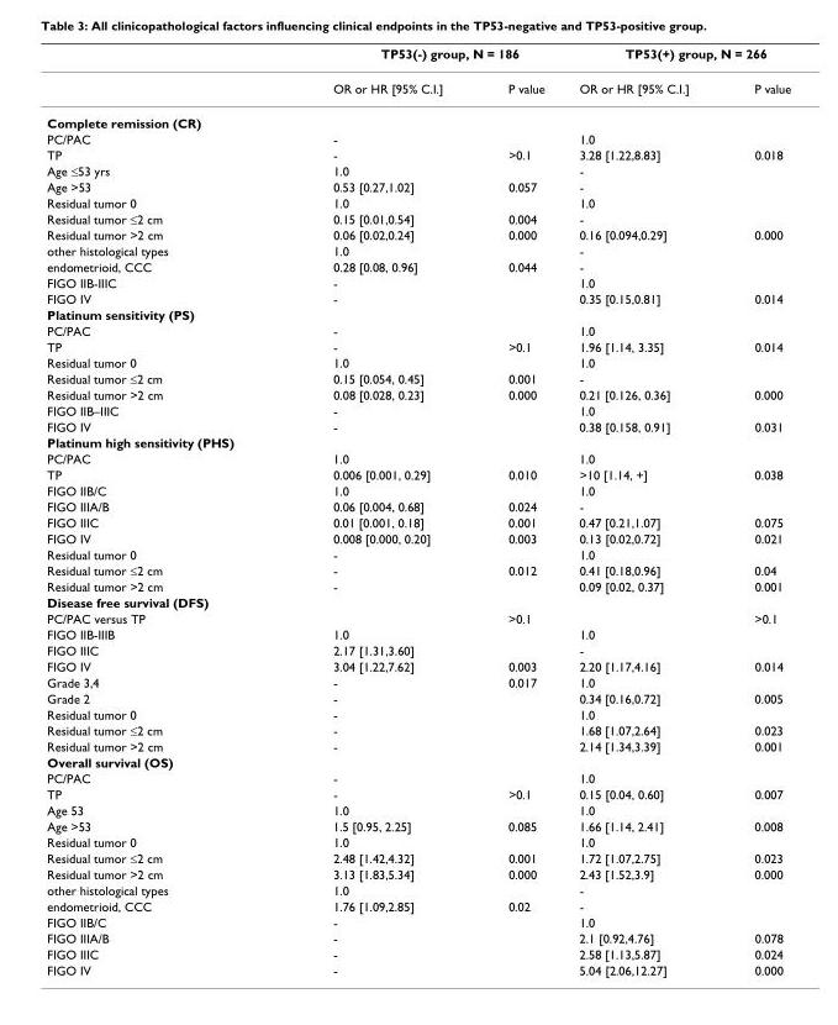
<table><thead><tr><td rowspan="2"></td><td colspan="2">TP53(-) group, N = 186</td><td colspan="2">TP53(+) group, N = 266</td></tr><tr><td>OR or HR [95% C.I.]</td><td>P value</td><td>OR or HR [95% C.I.]</td><td>P value</td></tr></thead><tbody><tr><td colspan="5">Complete remission (CR)</td></tr><tr><td>PC/PAC</td><td>-</td><td></td><td>1.0</td><td></td></tr><tr><td>TP</td><td>-</td><td>&gt;0.1</td><td>3.28 [1.22,8.83]</td><td>0.018</td></tr><tr><td>Age ≤53 yrs</td><td>1.0</td><td></td><td>-</td><td></td></tr><tr><td>Age &gt;53</td><td>0.53 [0.27,1.02]</td><td>0.057</td><td>-</td><td></td></tr><tr><td>Residual tumor 0</td><td>1.0</td><td></td><td>1.0</td><td></td></tr><tr><td>Residual tumor ≤2 cm</td><td>0.15 [0.01,0.54]</td><td>0.004</td><td>-</td><td></td></tr><tr><td>Residual tumor &gt;2 cm</td><td>0.06 [0.02,0.24]</td><td>0.000</td><td>0.16 [0.094,0.29]</td><td>0.000</td></tr><tr><td>other histological types</td><td>1.0</td><td></td><td>-</td><td></td></tr><tr><td>endometrioid, CCC</td><td>0.28 [0.08, 0.96]</td><td>0.044</td><td>-</td><td></td></tr><tr><td>FIGO IIB-IIIC</td><td>-</td><td></td><td>1.0</td><td></td></tr><tr><td>FIGO IV</td><td>-</td><td></td><td>0.35 [0.15,0.81]</td><td>0.014</td></tr><tr><td colspan="5">Platinum sensitivity (PS)</td></tr><tr><td>PC/PAC</td><td>-</td><td></td><td>1.0</td><td></td></tr><tr><td>TP</td><td>-</td><td>&gt;0.1</td><td>1.96 [1.14, 3.35]</td><td>0.014</td></tr><tr><td>Residual tumor 0</td><td>1.0</td><td></td><td>1.0</td><td></td></tr><tr><td>Residual tumor ≤2 cm</td><td>0.15 [0.054, 0.45]</td><td>0.001</td><td>-</td><td></td></tr><tr><td>Residual tumor &gt;2 cm</td><td>0.08 [0.028, 0.23]</td><td>0.000</td><td>0.21 [0.126, 0.36]</td><td>0.000</td></tr><tr><td>FIGO IIB–IIIC</td><td>-</td><td></td><td>1.0</td><td></td></tr><tr><td>FIGO IV</td><td>-</td><td></td><td>0.38 [0.158, 0.91]</td><td>0.031</td></tr><tr><td colspan="5">Platinum high sensitivity (PHS)</td></tr><tr><td>PC/PAC</td><td>1.0</td><td></td><td>1.0</td><td></td></tr><tr><td>TP</td><td>0.006 [0.001, 0.29]</td><td>0.010</td><td>&gt;10 [1.14, +]</td><td>0.038</td></tr><tr><td>FIGO IIB/C</td><td>1.0</td><td></td><td>1.0</td><td></td></tr><tr><td>FIGO IIIA/B</td><td>0.06 [0.004, 0.68]</td><td>0.024</td><td>-</td><td></td></tr><tr><td>FIGO IIIC</td><td>0.01 [0.001, 0.18]</td><td>0.001</td><td>0.47 [0.21,1.07]</td><td>0.075</td></tr><tr><td>FIGO IV</td><td>0.008 [0.000, 0.20]</td><td>0.003</td><td>0.13 [0.02,0.72]</td><td>0.021</td></tr><tr><td>Residual tumor 0</td><td>-</td><td></td><td>1.0</td><td></td></tr><tr><td>Residual tumor ≤2 cm</td><td>-</td><td>0.012</td><td>0.41 [0.18,0.96]</td><td>0.04</td></tr><tr><td>Residual tumor &gt;2 cm</td><td>-</td><td></td><td>0.09 [0.02, 0.37]</td><td>0.001</td></tr><tr><td colspan="5">Disease free survival (DFS)</td></tr><tr><td>PC/PAC versus TP</td><td></td><td>&gt;0.1</td><td></td><td>&gt;0.1</td></tr><tr><td>FIGO IIB-IIIB</td><td>1.0</td><td></td><td>1.0</td><td></td></tr><tr><td>FIGO IIIC</td><td>2.17 [1.31,3.60]</td><td></td><td>-</td><td></td></tr><tr><td>FIGO IV</td><td>3.04 [1.22,7.62]</td><td>0.003</td><td>2.20 [1.17,4.16]</td><td>0.014</td></tr><tr><td>Grade 3,4</td><td>-</td><td>0.017</td><td>1.0</td><td></td></tr><tr><td>Grade 2</td><td>-</td><td></td><td>0.34 [0.16,0.72]</td><td>0.005</td></tr><tr><td>Residual tumor 0</td><td>-</td><td></td><td>1.0</td><td></td></tr><tr><td>Residual tumor ≤2 cm</td><td>-</td><td></td><td>1.68 [1.07,2.64]</td><td>0.023</td></tr><tr><td>Residual tumor &gt;2 cm</td><td>-</td><td></td><td>2.14 [1.34,3.39]</td><td>0.001</td></tr><tr><td colspan="5">Overall survival (OS)</td></tr><tr><td>PC/PAC</td><td>-</td><td></td><td>1.0</td><td></td></tr><tr><td>TP</td><td>-</td><td>&gt;0.1</td><td>0.15 [0.04, 0.60]</td><td>0.007</td></tr><tr><td>Age 53</td><td>1.0</td><td></td><td>1.0</td><td></td></tr><tr><td>Age &gt;53</td><td>1.5 [0.95, 2.25]</td><td>0.085</td><td>1.66 [1.14, 2.41]</td><td>0.008</td></tr><tr><td>Residual tumor 0</td><td>1.0</td><td></td><td>1.0</td><td></td></tr><tr><td>Residual tumor ≤2 cm</td><td>2.48 [1.42,4.32]</td><td>0.001</td><td>1.72 [1.07,2.75]</td><td>0.023</td></tr><tr><td>Residual tumor &gt;2 cm</td><td>3.13 [1.83,5.34]</td><td>0.000</td><td>2.43 [1.52,3.9]</td><td>0.000</td></tr><tr><td>other histological types</td><td>1.0</td><td></td><td>-</td><td></td></tr><tr><td>endometrioid, CCC</td><td>1.76 [1.09,2.85]</td><td>0.02</td><td>-</td><td></td></tr><tr><td>FIGO IIB/C</td><td>-</td><td></td><td>1.0</td><td></td></tr><tr><td>FIGO IIIA/B</td><td>-</td><td></td><td>2.1 [0.92,4.76]</td><td>0.078</td></tr><tr><td>FIGO IIIC</td><td>-</td><td></td><td>2.58 [1.13,5.87]</td><td>0.024</td></tr><tr><td>FIGO IV</td><td>-</td><td></td><td>5.04 [2.06,12.27]</td><td>0.000</td></tr></tbody></table>